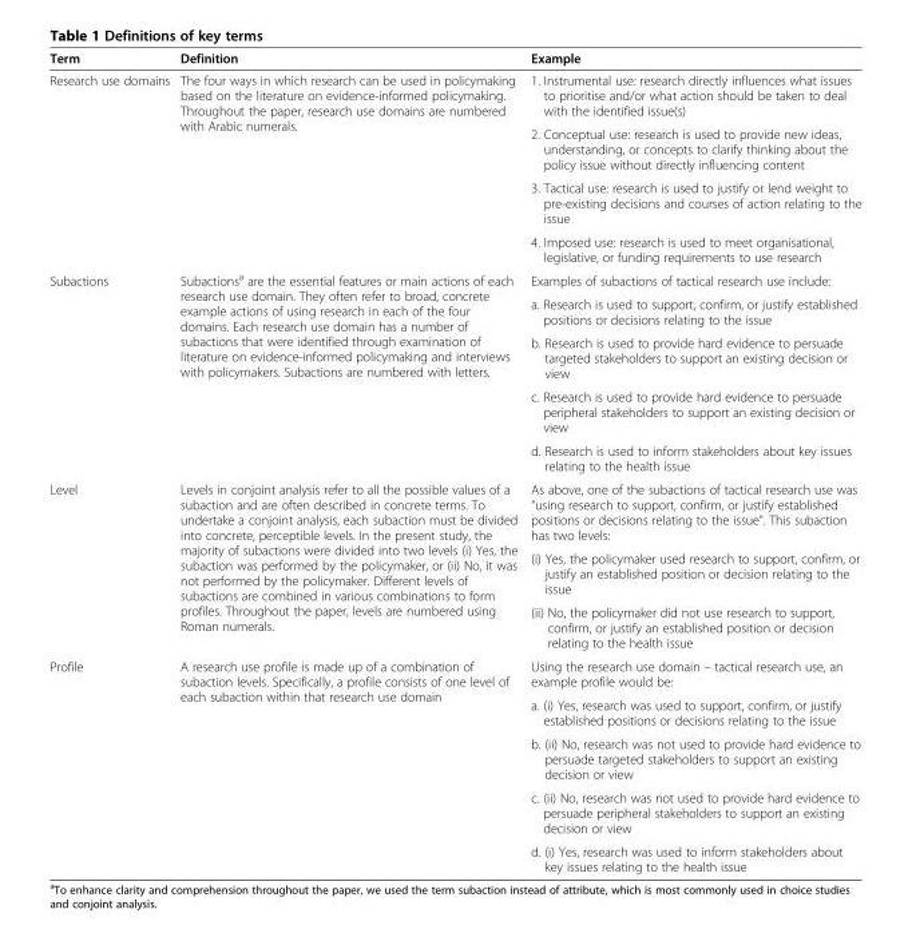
<table><thead><tr><td>Term</td><td>Definition</td><td>Example</td></tr></thead><tbody><tr><td rowspan="4">Research use domains</td><td rowspan="4">The four ways in which research can be used in policymaking based on the literature on evidence-informed policymaking. Throughout the paper, research use domains are numbered with Arabic numerals.</td><td>1. Instrumental use: research directly influences what issues to prioritise and/or what action should be taken to deal with the identified issue(s)</td></tr><tr><td>2. Conceptual use: research is used to provide new ideas, understanding, or concepts to clarify thinking about the policy issue without directly influencing content</td></tr><tr><td>3. Tactical use: research is used to justify or lend weight to pre-existing decisions and courses of action relating to the issue</td></tr><tr><td>4. Imposed use: research is used to meet organisational, legislative, or funding requirements to use research</td></tr><tr><td rowspan="5">Subactions</td><td rowspan="3">Subactions<sup>a</sup> are the essential features or main actions of each research use domain. They often refer to broad, concrete example actions of using research in each of the four domains. Each research use domain has a number of subactions that were identified through examination of literature on evidence-informed policymaking and interviews with policymakers. Subactions are numbered with letters.</td><td>Examples of subactions of tactical research use include:</td></tr><tr><td>a. Research is used to support, confirm, or justify established positions or decisions relating to the issue</td></tr><tr><td>b. Research is used to provide hard evidence to persuade targeted stakeholders to support an existing decision or view</td></tr><tr><td rowspan="2"></td><td>c. Research is used to provide hard evidence to persuade peripheral stakeholders to support an existing decision or view</td></tr><tr><td>d. Research is used to inform stakeholders about key issues relating to the health issue</td></tr><tr><td rowspan="3">Level</td><td rowspan="3">Levels in conjoint analysis refer to all the possible values of a subaction and are often described in concrete terms. To undertake a conjoint analysis, each subaction must be divided into concrete, perceptible levels. In the present study, the majority of subactions were divided into two levels (i) Yes, the subaction was performed by the policymaker, or (ii) No, it was not performed by the policymaker. Different levels of subactions are combined in various combinations to form profiles. Throughout the paper, levels are numbered using Roman numerals.</td><td>As above, one of the subactions of tactical research use was “using research to support, confirm, or justify established positions or decisions relating to the issue”. This subaction has two levels:</td></tr><tr><td>(i) Yes, the policymaker used research to support, confirm, or justify an established position or decision relating to the issue</td></tr><tr><td>(ii) No, the policymaker did not use research to support, confirm, or justify an established position or decision relating to the health issue</td></tr><tr><td rowspan="5">Profile</td><td rowspan="5">A research use profile is made up of a combination of subaction levels. Specifically, a profile consists of one level of each subaction within that research use domain</td><td>Using the research use domain – tactical research use, an example profile would be:</td></tr><tr><td>a. (i) Yes, research was used to support, confirm, or justify established positions or decisions relating to the issue</td></tr><tr><td>b. (ii) No, research was not used to provide hard evidence to persuade targeted stakeholders to support an existing decision or view</td></tr><tr><td>c. (ii) No, research was not used to provide hard evidence to persuade peripheral stakeholders to support an existing decision or view</td></tr><tr><td>d. (i) Yes, research was used to inform stakeholders about key issues relating to the health issue</td></tr></tbody></table>